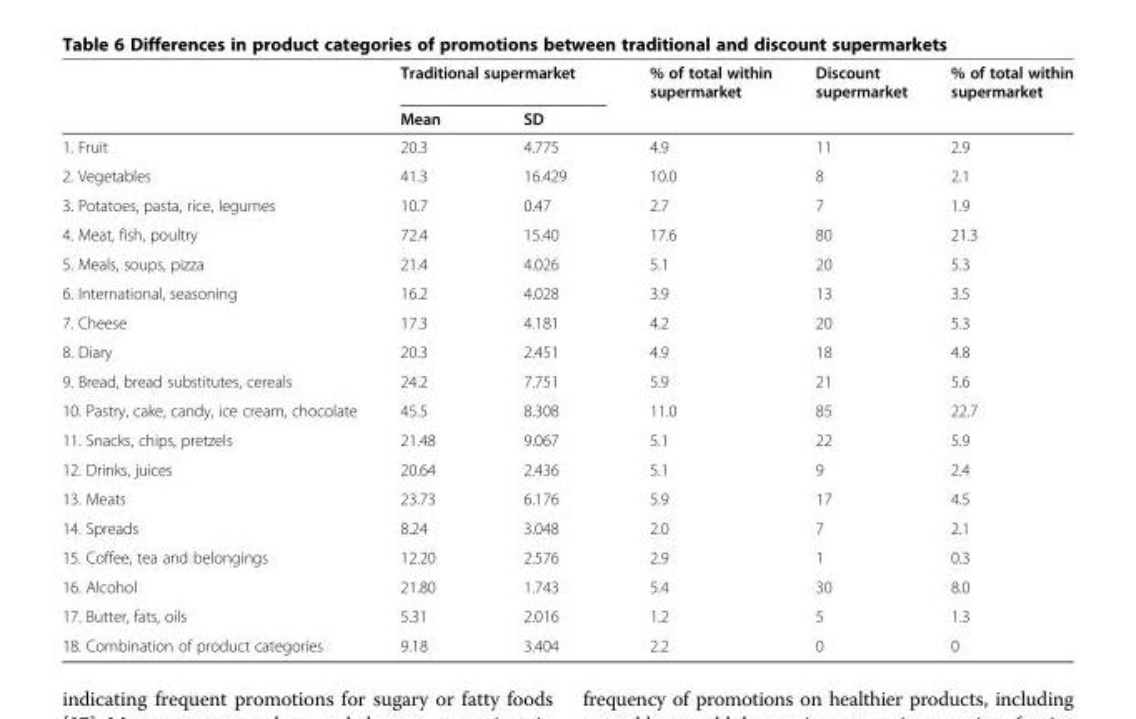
<table><thead><tr><td rowspan="2"></td><td colspan="2">Traditional supermarket</td><td rowspan="2">% of total within supermarket</td><td rowspan="2">Discount supermarket</td><td rowspan="2">% of total within supermarket</td></tr><tr><td>Mean</td><td>SD</td></tr></thead><tbody><tr><td>1. Fruit</td><td>20.3</td><td>4.775</td><td>4.9</td><td>11</td><td>2.9</td></tr><tr><td>2. Vegetables</td><td>41.3</td><td>16.429</td><td>10.0</td><td>8</td><td>2.1</td></tr><tr><td>3. Potatoes, pasta, rice, legumes</td><td>10.7</td><td>0.47</td><td>2.7</td><td>7</td><td>1.9</td></tr><tr><td>4. Meat, fish, poultry</td><td>72.4</td><td>15.40</td><td>17.6</td><td>80</td><td>21.3</td></tr><tr><td>5. Meals, soups, pizza</td><td>21.4</td><td>4.026</td><td>5.1</td><td>20</td><td>5.3</td></tr><tr><td>6. International, seasoning</td><td>16.2</td><td>4.028</td><td>3.9</td><td>13</td><td>3.5</td></tr><tr><td>7. Cheese</td><td>17.3</td><td>4.181</td><td>4.2</td><td>20</td><td>5.3</td></tr><tr><td>8. Diary</td><td>20.3</td><td>2.451</td><td>4.9</td><td>18</td><td>4.8</td></tr><tr><td>9. Bread, bread substitutes, cereals</td><td>24.2</td><td>7.751</td><td>5.9</td><td>21</td><td>5.6</td></tr><tr><td>10. Pastry, cake, candy, ice cream, chocolate</td><td>45.5</td><td>8.308</td><td>11.0</td><td>85</td><td>22.7</td></tr><tr><td>11. Snacks, chips, pretzels</td><td>21.48</td><td>9.067</td><td>5.1</td><td>22</td><td>5.9</td></tr><tr><td>12. Drinks, juices</td><td>20.64</td><td>2.436</td><td>5.1</td><td>9</td><td>2.4</td></tr><tr><td>13. Meats</td><td>23.73</td><td>6.176</td><td>5.9</td><td>17</td><td>4.5</td></tr><tr><td>14. Spreads</td><td>8.24</td><td>3.048</td><td>2.0</td><td>7</td><td>2.1</td></tr><tr><td>15. Coffee, tea and belongings</td><td>12.20</td><td>2.576</td><td>2.9</td><td>1</td><td>0.3</td></tr><tr><td>16. Alcohol</td><td>21.80</td><td>1.743</td><td>5.4</td><td>30</td><td>8.0</td></tr><tr><td>17. Butter, fats, oils</td><td>5.31</td><td>2.016</td><td>1.2</td><td>5</td><td>1.3</td></tr><tr><td>18. Combination of product categories</td><td>9.18</td><td>3.404</td><td>2.2</td><td>0</td><td>0</td></tr></tbody></table>